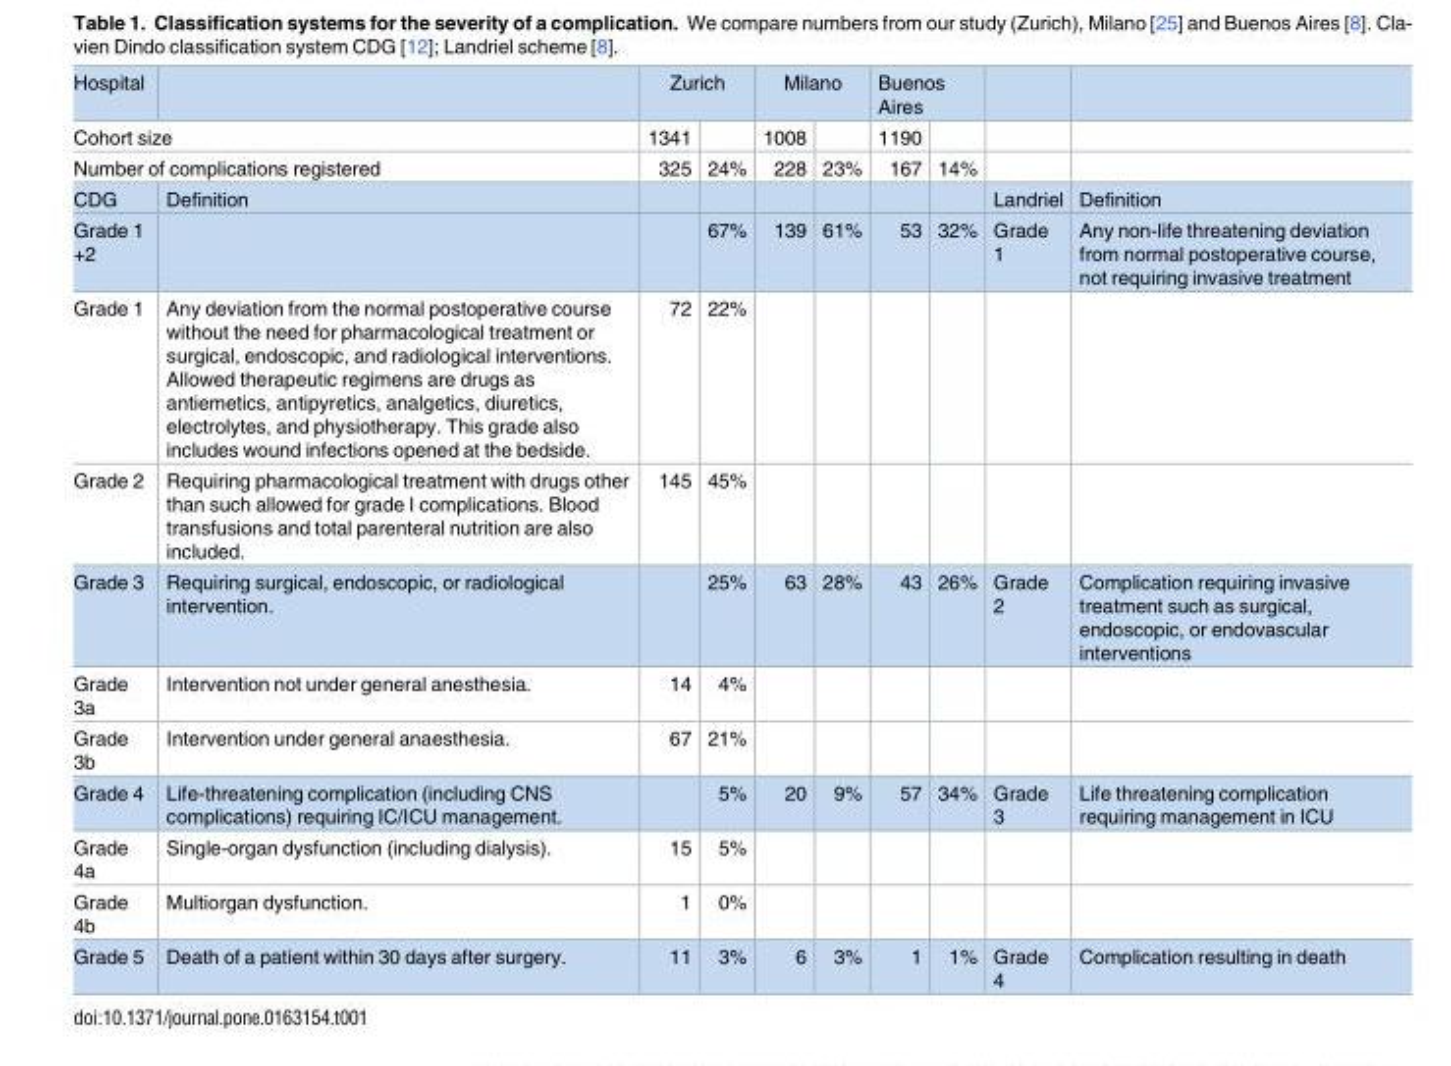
<table><tbody><tr><td>Hospital</td><td></td><td colspan="2">Zurich</td><td colspan="2">Milano</td><td colspan="2">Buenos Aires</td><td></td><td></td></tr><tr><td colspan="2">Cohort size</td><td>1341</td><td></td><td>1008</td><td></td><td>1190</td><td></td><td></td><td></td></tr><tr><td colspan="2">Number of complications registered</td><td>325</td><td>24%</td><td>228</td><td>23%</td><td>167</td><td>14%</td><td></td><td></td></tr><tr><td>CDG</td><td>Definition</td><td></td><td></td><td></td><td></td><td></td><td></td><td>Landriel</td><td>Definition</td></tr><tr><td>Grade 1 +2</td><td></td><td></td><td>67%</td><td>139</td><td>61%</td><td>53</td><td>32%</td><td>Grade 1</td><td>Any non-life threatening deviation from normal postoperative course, not requiring invasive treatment</td></tr><tr><td>Grade 1</td><td>Any deviation from the normal postoperative course without the need for pharmacological treatment or surgical, endoscopic, and radiological interventions. Allowed therapeutic regimens are drugs as antiemetics, antipyretics, analgetics, diuretics, electrolytes, and physiotherapy. This grade also includes wound infections opened at the bedside.</td><td>72</td><td>22%</td><td></td><td></td><td></td><td></td><td></td><td></td></tr><tr><td>Grade 2</td><td>Requiring pharmacological treatment with drugs other than such allowed for grade I complications. Blood transfusions and total parenteral nutrition are also included.</td><td>145</td><td>45%</td><td></td><td></td><td></td><td></td><td></td><td></td></tr><tr><td>Grade 3</td><td>Requiring surgical, endoscopic, or radiological intervention.</td><td></td><td>25%</td><td>63</td><td>28%</td><td>43</td><td>26%</td><td>Grade 2</td><td>Complication requiring invasive treatment such as surgical, endoscopic, or endovascular interventions</td></tr><tr><td>Grade 3a</td><td>Intervention not under general anesthesia.</td><td>14</td><td>4%</td><td></td><td></td><td></td><td></td><td></td><td></td></tr><tr><td>Grade 3b</td><td>Intervention under general anaesthesia.</td><td>67</td><td>21%</td><td></td><td></td><td></td><td></td><td></td><td></td></tr><tr><td>Grade 4</td><td>Life-threatening complication (including CNS complications) requiring IC/ICU management.</td><td></td><td>5%</td><td>20</td><td>9%</td><td>57</td><td>34%</td><td>Grade 3</td><td>Life threatening complication requiring management in ICU</td></tr><tr><td>Grade 4a</td><td>Single-organ dysfunction (including dialysis).</td><td>15</td><td>5%</td><td></td><td></td><td></td><td></td><td></td><td></td></tr><tr><td>Grade 4b</td><td>Multiorgan dysfunction.</td><td>1</td><td>0%</td><td></td><td></td><td></td><td></td><td></td><td></td></tr><tr><td>Grade 5</td><td>Death of a patient within 30 days after surgery.</td><td>11</td><td>3%</td><td>6</td><td>3%</td><td>1</td><td>1%</td><td>Grade 4</td><td>Complication resulting in death</td></tr></tbody></table>